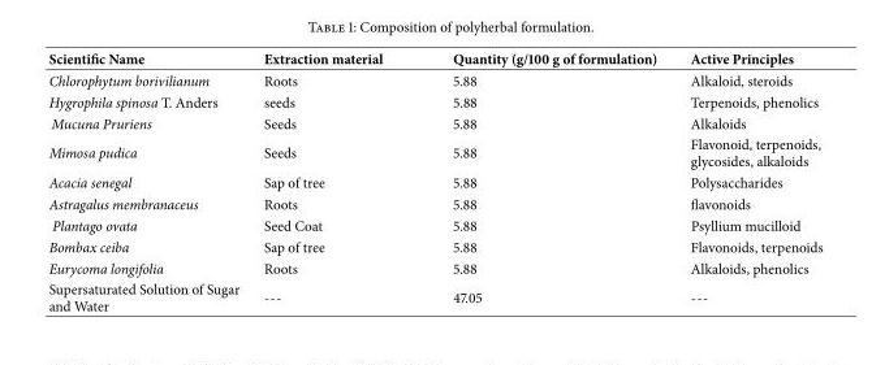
<table><thead><tr><td>Scientific Name</td><td>Extraction material</td><td>Quantity (g/100 g of formulation)</td><td>Active Principles</td></tr></thead><tbody><tr><td>Chlorophytum borivilianum</td><td>Roots</td><td>5.88</td><td>Alkaloid, steroids</td></tr><tr><td>Hygrophila spinosa T. Anders</td><td>seeds</td><td>5.88</td><td>Terpenoids, phenolics</td></tr><tr><td>Mucuna Pruriens</td><td>Seeds</td><td>5.88</td><td>Alkaloids</td></tr><tr><td>Mimosa pudica</td><td>Seeds</td><td>5.88</td><td>Flavonoid, terpenoids, glycosides, alkaloids</td></tr><tr><td>Acacia senegal</td><td>Sap of tree</td><td>5.88</td><td>Polysaccharides</td></tr><tr><td>Astragalus membranaceus</td><td>Roots</td><td>5.88</td><td>flavonoids</td></tr><tr><td>Plantago ovata</td><td>Seed Coat</td><td>5.88</td><td>Psyllium mucilloid</td></tr><tr><td>Bombax ceiba</td><td>Sap of tree</td><td>5.88</td><td>Flavonoids, terpenoids</td></tr><tr><td>Eurycoma longifolia</td><td>Roots</td><td>5.88</td><td>Alkaloids, phenolics</td></tr><tr><td>Supersaturated Solution of Sugar and Water</td><td>---</td><td>47.05</td><td>---</td></tr></tbody></table>